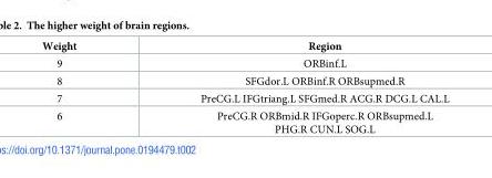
<table><thead><tr><td>Weight</td><td>Region</td></tr></thead><tbody><tr><td>9</td><td>ORBinf.L</td></tr><tr><td>8</td><td>SFGdor.L ORBinf.R ORBsupmed.R</td></tr><tr><td>7</td><td>PreCG.L IFGtriang.L SFGmed.R ACG.R DCG.L CAL.L</td></tr><tr><td>6</td><td>PreCG.R ORBmid.R IFGoperc.R ORBsupmed.L PHG.R CUN.L SOG.L</td></tr></tbody></table>